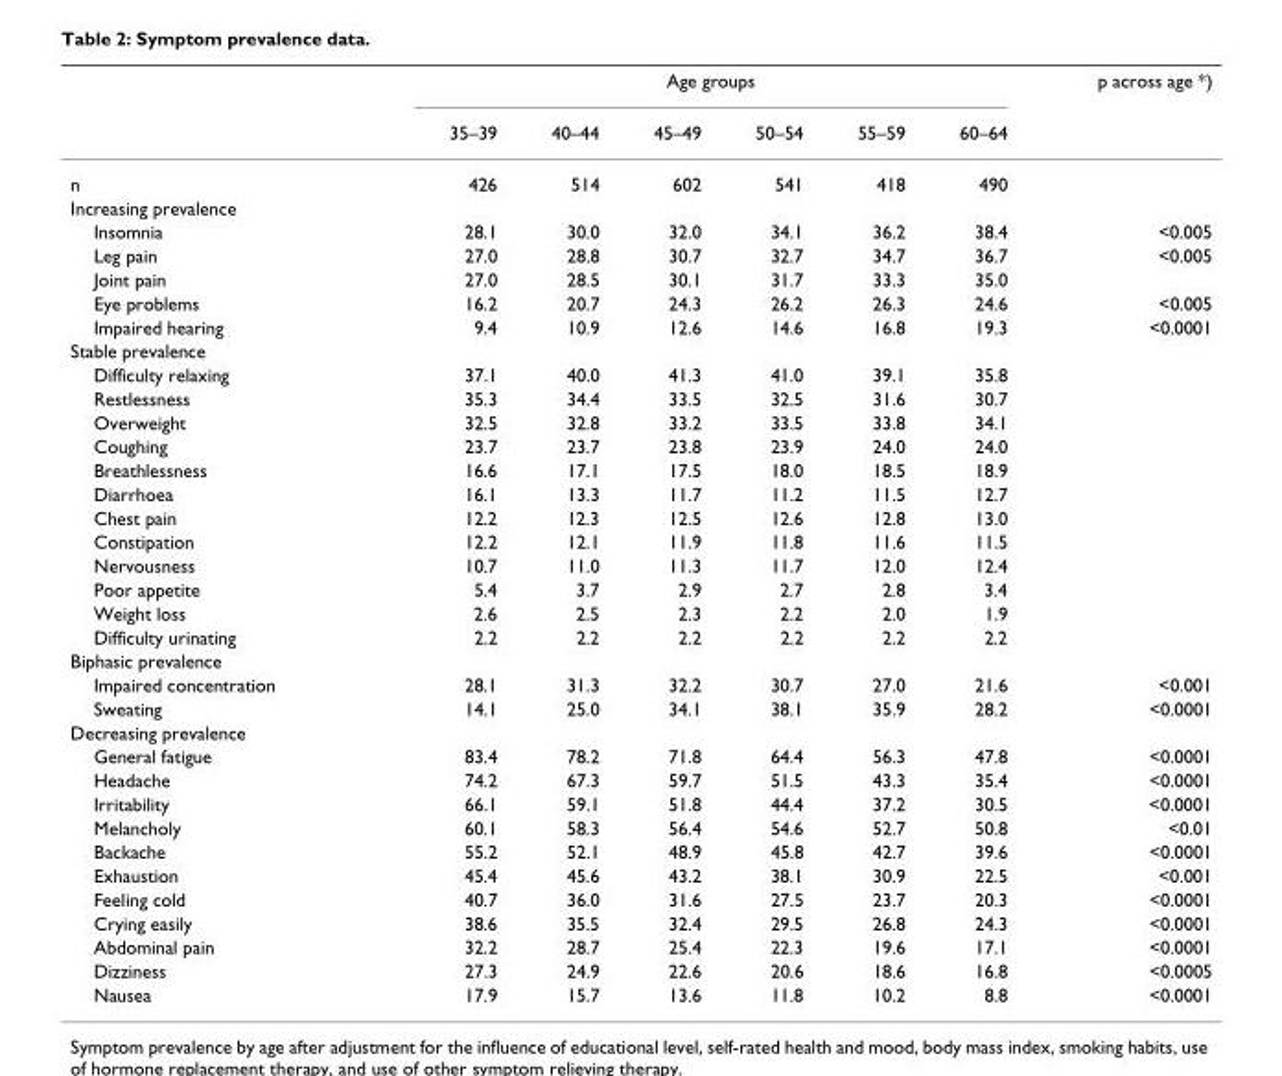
<table><thead><tr><td rowspan="2"></td><td colspan="6">Age groups</td><td rowspan="2">p across age *)</td></tr><tr><td>35–39</td><td>40–44</td><td>45–49</td><td>50–54</td><td>55–59</td><td>60–64</td></tr></thead><tbody><tr><td>n</td><td>426</td><td>514</td><td>602</td><td>541</td><td>418</td><td>490</td><td></td></tr><tr><td colspan="8">Increasing prevalence</td></tr><tr><td>Insomnia</td><td>28.1</td><td>30.0</td><td>32.0</td><td>34.1</td><td>36.2</td><td>38.4</td><td>&lt;0.005</td></tr><tr><td>Leg pain</td><td>27.0</td><td>28.8</td><td>30.7</td><td>32.7</td><td>34.7</td><td>36.7</td><td>&lt;0.005</td></tr><tr><td>Joint pain</td><td>27.0</td><td>28.5</td><td>30.1</td><td>31.7</td><td>33.3</td><td>35.0</td><td></td></tr><tr><td>Eye problems</td><td>16.2</td><td>20.7</td><td>24.3</td><td>26.2</td><td>26.3</td><td>24.6</td><td>&lt;0.005</td></tr><tr><td>Impaired hearing</td><td>9.4</td><td>10.9</td><td>12.6</td><td>14.6</td><td>16.8</td><td>19.3</td><td>&lt;0.0001</td></tr><tr><td colspan="8">Stable prevalence</td></tr><tr><td>Difficulty relaxing</td><td>37.1</td><td>40.0</td><td>41.3</td><td>41.0</td><td>39.1</td><td>35.8</td><td></td></tr><tr><td>Restlessness</td><td>35.3</td><td>34.4</td><td>33.5</td><td>32.5</td><td>31.6</td><td>30.7</td><td></td></tr><tr><td>Overweight</td><td>32.5</td><td>32.8</td><td>33.2</td><td>33.5</td><td>33.8</td><td>34.1</td><td></td></tr><tr><td>Coughing</td><td>23.7</td><td>23.7</td><td>23.8</td><td>23.9</td><td>24.0</td><td>24.0</td><td></td></tr><tr><td>Breathlessness</td><td>16.6</td><td>17.1</td><td>17.5</td><td>18.0</td><td>18.5</td><td>18.9</td><td></td></tr><tr><td>Diarrhoea</td><td>16.1</td><td>13.3</td><td>11.7</td><td>11.2</td><td>11.5</td><td>12.7</td><td></td></tr><tr><td>Chest pain</td><td>12.2</td><td>12.3</td><td>12.5</td><td>12.6</td><td>12.8</td><td>13.0</td><td></td></tr><tr><td>Constipation</td><td>12.2</td><td>12.1</td><td>11.9</td><td>11.8</td><td>11.6</td><td>11.5</td><td></td></tr><tr><td>Nervousness</td><td>10.7</td><td>11.0</td><td>11.3</td><td>11.7</td><td>12.0</td><td>12.4</td><td></td></tr><tr><td>Poor appetite</td><td>5.4</td><td>3.7</td><td>2.9</td><td>2.7</td><td>2.8</td><td>3.4</td><td></td></tr><tr><td>Weight loss</td><td>2.6</td><td>2.5</td><td>2.3</td><td>2.2</td><td>2.0</td><td>1.9</td><td></td></tr><tr><td>Difficulty urinating</td><td>2.2</td><td>2.2</td><td>2.2</td><td>2.2</td><td>2.2</td><td>2.2</td><td></td></tr><tr><td colspan="8">Biphasic prevalence</td></tr><tr><td>Impaired concentration</td><td>28.1</td><td>31.3</td><td>32.2</td><td>30.7</td><td>27.0</td><td>21.6</td><td>&lt;0.001</td></tr><tr><td>Sweating</td><td>14.1</td><td>25.0</td><td>34.1</td><td>38.1</td><td>35.9</td><td>28.2</td><td>&lt;0.0001</td></tr><tr><td colspan="8">Decreasing prevalence</td></tr><tr><td>General fatigue</td><td>83.4</td><td>78.2</td><td>71.8</td><td>64.4</td><td>56.3</td><td>47.8</td><td>&lt;0.0001</td></tr><tr><td>Headache</td><td>74.2</td><td>67.3</td><td>59.7</td><td>51.5</td><td>43.3</td><td>35.4</td><td>&lt;0.0001</td></tr><tr><td>Irritability</td><td>66.1</td><td>59.1</td><td>51.8</td><td>44.4</td><td>37.2</td><td>30.5</td><td>&lt;0.0001</td></tr><tr><td>Melancholy</td><td>60.1</td><td>58.3</td><td>56.4</td><td>54.6</td><td>52.7</td><td>50.8</td><td>&lt;0.01</td></tr><tr><td>Backache</td><td>55.2</td><td>52.1</td><td>48.9</td><td>45.8</td><td>42.7</td><td>39.6</td><td>&lt;0.0001</td></tr><tr><td>Exhaustion</td><td>45.4</td><td>45.6</td><td>43.2</td><td>38.1</td><td>30.9</td><td>22.5</td><td>&lt;0.001</td></tr><tr><td>Feeling cold</td><td>40.7</td><td>36.0</td><td>31.6</td><td>27.5</td><td>23.7</td><td>20.3</td><td>&lt;0.0001</td></tr><tr><td>Crying easily</td><td>38.6</td><td>35.5</td><td>32.4</td><td>29.5</td><td>26.8</td><td>24.3</td><td>&lt;0.0001</td></tr><tr><td>Abdominal pain</td><td>32.2</td><td>28.7</td><td>25.4</td><td>22.3</td><td>19.6</td><td>17.1</td><td>&lt;0.0001</td></tr><tr><td>Dizziness</td><td>27.3</td><td>24.9</td><td>22.6</td><td>20.6</td><td>18.6</td><td>16.8</td><td>&lt;0.0005</td></tr><tr><td>Nausea</td><td>17.9</td><td>15.7</td><td>13.6</td><td>11.8</td><td>10.2</td><td>8.8</td><td>&lt;0.0001</td></tr></tbody></table>